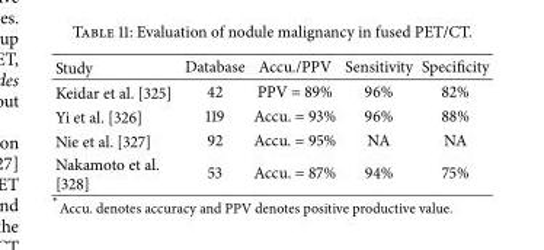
<table><thead><tr><td>Study</td><td>Database</td><td>Accu./PPV</td><td>Sensitivity</td><td>Specificity</td></tr></thead><tbody><tr><td>Keidar et al. [325]</td><td>42</td><td>PPV = 89%</td><td>96%</td><td>82%</td></tr><tr><td>Yi et al. [326]</td><td>119</td><td>Accu. = 93%</td><td>96%</td><td>88%</td></tr><tr><td>Nie et al. [327]</td><td>92</td><td>Accu. = 95%</td><td>NA</td><td>NA</td></tr><tr><td>Nakamoto et al. [328]</td><td>53</td><td>Accu. = 87%</td><td>94%</td><td>75%</td></tr></tbody></table>